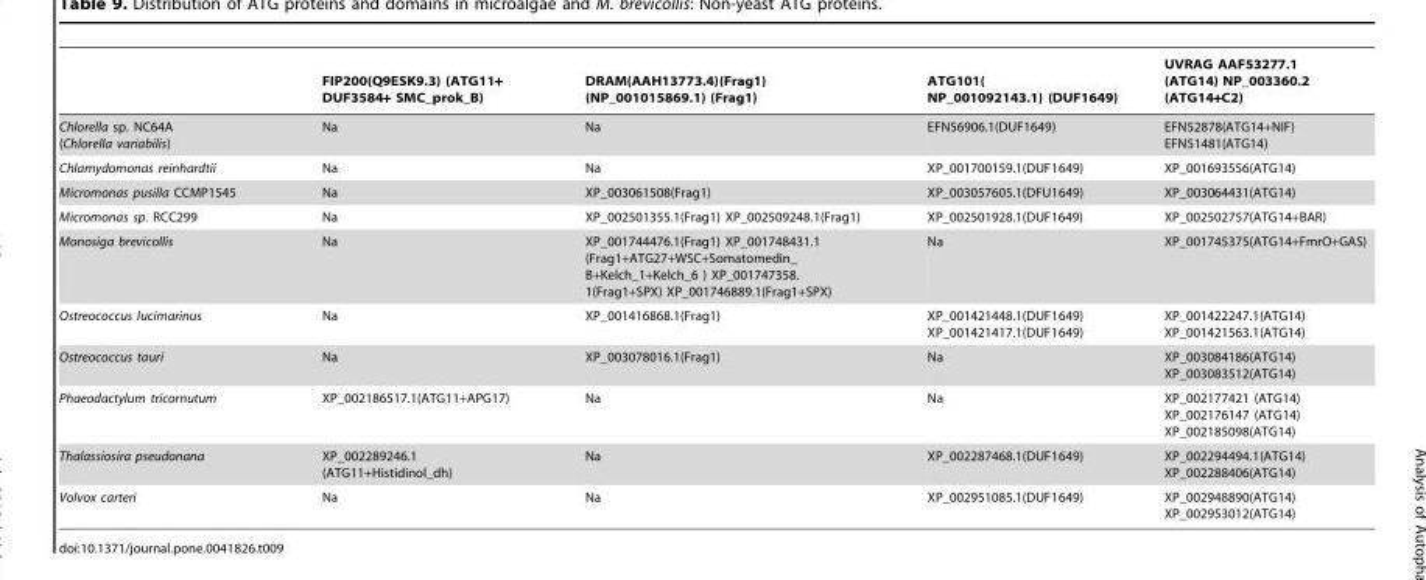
<table><thead><tr><td></td><td>FIP200(Q9ESK9.3) (ATG11+ DUF3584+ SMC_prok_B)</td><td>DRAM(AAH13773.4)(Frag1) (NP_001015869.1) (Frag1)</td><td>ATG101( NP_001092143.1) (DUF1649)</td><td>UVRAG AAF53277.1 (ATG14) NP_003360.2 (ATG14+C2)</td></tr></thead><tbody><tr><td>Chlorella sp. NC64A (Chlorella variabilis)</td><td>Na</td><td>Na</td><td>EFN56906.1(DUF1649)</td><td>EFN52878(ATG14+NIF) EFN51481(ATG14)</td></tr><tr><td>Chlamydomonas reinhardtii</td><td>Na</td><td>Na</td><td>XP_001700159.1(DUF1649)</td><td>XP_001693556(ATG14)</td></tr><tr><td>Micromonas pusilla CCMP1545</td><td>Na</td><td>XP_003061508(Frag1)</td><td>XP_003057605.1(DFU1649)</td><td>XP_003064431(ATG14)</td></tr><tr><td>Micromonas sp. RCC299</td><td>Na</td><td>XP_002501355.1(Frag1) XP_002509248.1(Frag1)</td><td>XP_002501928.1(DUF1649)</td><td>XP_002502757(ATG14+BAR)</td></tr><tr><td>Monosiga brevicollis</td><td>Na</td><td>XP_001744476.1(Frag1) XP_001748431.1 (Frag1+ATG27+WSC+Somatomedin_ B+Kelch_1+Kelch_6 ) XP_001747358. 1(Frag1+SPX) XP_001746889.1(Frag1+SPX)</td><td>Na</td><td>XP_001745375(ATG14+FmrO+GAS)</td></tr><tr><td>Ostreococcus lucimarinus</td><td>Na</td><td>XP_001416868.1(Frag1)</td><td>XP_001421448.1(DUF1649) XP_001421417.1(DUF1649)</td><td>XP_001422247.1(ATG14) XP_001421563.1(ATG14)</td></tr><tr><td>Ostreococcus tauri</td><td>Na</td><td>XP_003078016.1(Frag1)</td><td>Na</td><td>XP_003084186(ATG14) XP_003083512(ATG14)</td></tr><tr><td>Phaeodactylum tricornutum</td><td>XP_002186517.1(ATG11+APG17)</td><td>Na</td><td>Na</td><td>XP_002177421 (ATG14) XP_002176147 (ATG14) XP_002185098(ATG14)</td></tr><tr><td>Thalassiosira pseudonana</td><td>XP_002289246.1 (ATG11+Histidinol_dh)</td><td>Na</td><td>XP_002287468.1(DUF1649)</td><td>XP_002294494.1(ATG14) XP_002288406(ATG14)</td></tr><tr><td>Volvox carteri</td><td>Na</td><td>Na</td><td>XP_002951085.1(DUF1649)</td><td>XP_002948890(ATG14) XP_002953012(ATG14)</td></tr></tbody></table>